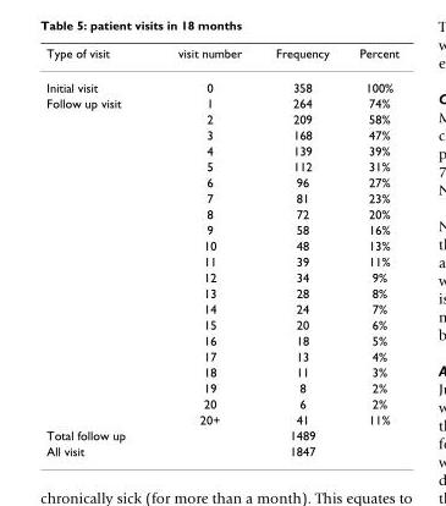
<table><thead><tr><td>Type of visit</td><td>visit number</td><td>Frequency</td><td>Percent</td></tr></thead><tbody><tr><td>Initial visit</td><td>0</td><td>358</td><td>100%</td></tr><tr><td rowspan="21">Follow up visit</td><td>1</td><td>264</td><td>74%</td></tr><tr><td>2</td><td>209</td><td>58%</td></tr><tr><td>3</td><td>168</td><td>47%</td></tr><tr><td>4</td><td>139</td><td>39%</td></tr><tr><td>5</td><td>112</td><td>31%</td></tr><tr><td>6</td><td>96</td><td>27%</td></tr><tr><td>7</td><td>81</td><td>23%</td></tr><tr><td>8</td><td>72</td><td>20%</td></tr><tr><td>9</td><td>58</td><td>16%</td></tr><tr><td>10</td><td>48</td><td>13%</td></tr><tr><td>11</td><td>39</td><td>11%</td></tr><tr><td>12</td><td>34</td><td>9%</td></tr><tr><td>13</td><td>28</td><td>8%</td></tr><tr><td>14</td><td>24</td><td>7%</td></tr><tr><td>15</td><td>20</td><td>6%</td></tr><tr><td>16</td><td>18</td><td>5%</td></tr><tr><td>17</td><td>13</td><td>4%</td></tr><tr><td>18</td><td>11</td><td>3%</td></tr><tr><td>19</td><td>8</td><td>2%</td></tr><tr><td>20</td><td>6</td><td>2%</td></tr><tr><td>20+</td><td>41</td><td>11%</td></tr><tr><td>Total follow up</td><td></td><td>1489</td><td></td></tr><tr><td>All visit</td><td></td><td>1847</td><td></td></tr></tbody></table>